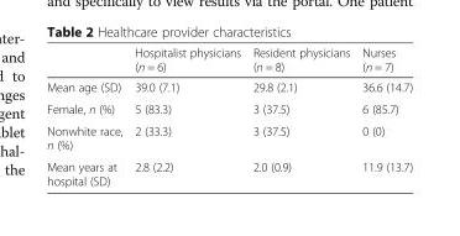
<table><thead><tr><td></td><td>Hospitalist physicians (n = 6)</td><td>Resident physicians (n = 8)</td><td>Nurses (n = 7)</td></tr></thead><tbody><tr><td>Mean age (SD)</td><td>39.0 (7.1)</td><td>29.8 (2.1)</td><td>36.6 (14.7)</td></tr><tr><td>Female, n (%)</td><td>5 (83.3)</td><td>3 (37.5)</td><td>6 (85.7)</td></tr><tr><td>Nonwhite race, n (%)</td><td>2 (33.3)</td><td>3 (37.5)</td><td>0 (0)</td></tr><tr><td>Mean years at hospital (SD)</td><td>2.8 (2.2)</td><td>2.0 (0.9)</td><td>11.9 (13.7)</td></tr></tbody></table>